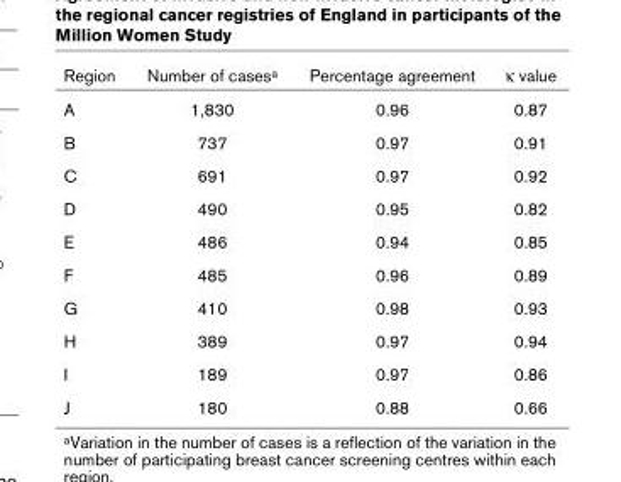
<table><thead><tr><td>Region</td><td>Number of casesa</td><td>Percentage agreement</td><td>κ value</td></tr></thead><tbody><tr><td>A</td><td>1,830</td><td>0.96</td><td>0.87</td></tr><tr><td>B</td><td>737</td><td>0.97</td><td>0.91</td></tr><tr><td>C</td><td>691</td><td>0.97</td><td>0.92</td></tr><tr><td>D</td><td>490</td><td>0.95</td><td>0.82</td></tr><tr><td>E</td><td>486</td><td>0.94</td><td>0.85</td></tr><tr><td>F</td><td>485</td><td>0.96</td><td>0.89</td></tr><tr><td>G</td><td>410</td><td>0.98</td><td>0.93</td></tr><tr><td>H</td><td>389</td><td>0.97</td><td>0.94</td></tr><tr><td>I</td><td>189</td><td>0.97</td><td>0.86</td></tr><tr><td>J</td><td>180</td><td>0.88</td><td>0.66</td></tr></tbody></table>